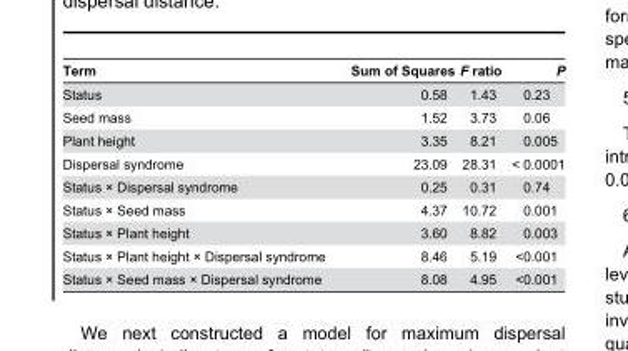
<table><thead><tr><td>Term</td><td>Sum of Squares</td><td>F ratio</td><td>P</td></tr></thead><tbody><tr><td>Status</td><td>0.58</td><td>1.43</td><td>0.23</td></tr><tr><td>Seed mass</td><td>1.52</td><td>3.73</td><td>0.06</td></tr><tr><td>Plant height</td><td>3.35</td><td>8.21</td><td>0.005</td></tr><tr><td>Dispersal syndrome</td><td>23.09</td><td>28.31</td><td>&lt; 0.0001</td></tr><tr><td>Status × Dispersal syndrome</td><td>0.25</td><td>0.31</td><td>0.74</td></tr><tr><td>Status × Seed mass</td><td>4.37</td><td>10.72</td><td>0.001</td></tr><tr><td>Status × Plant height</td><td>3.60</td><td>8.82</td><td>0.003</td></tr><tr><td>Status × Plant height × Dispersal syndrome</td><td>8.46</td><td>5.19</td><td>&lt;0.001</td></tr><tr><td>Status × Seed mass × Dispersal syndrome</td><td>8.08</td><td>4.95</td><td>&lt;0.001</td></tr></tbody></table>